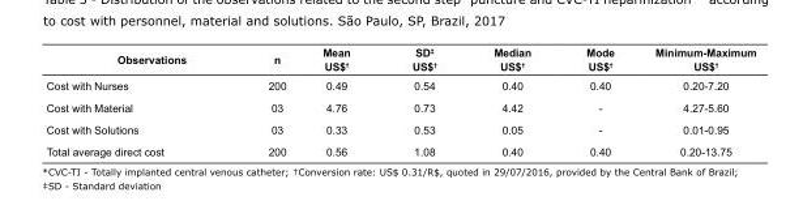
<table><tbody><tr><td>Observations</td><td>n</td><td>Mean US$<sup>†</sup></td><td>SD<sup>‡</sup> US$<sup>†</sup></td><td>Median US$<sup>†</sup></td><td>Mode US$<sup>†</sup></td><td>Minimum-Maximum US$<sup>†</sup></td></tr><tr><td>Cost with Nurses</td><td>200</td><td>0.49</td><td>0.54</td><td>0.40</td><td>0.40</td><td>0.20-7.20</td></tr><tr><td>Cost with Material</td><td>03</td><td>4.76</td><td>0.73</td><td>4.42</td><td>-</td><td>4.27-5.60</td></tr><tr><td>Cost with Solutions</td><td>03</td><td>0.33</td><td>0.53</td><td>0.05</td><td>-</td><td>0.01-0.95</td></tr><tr><td>Total average direct cost</td><td>200</td><td>0.56</td><td>1.08</td><td>0.40</td><td>0.40</td><td>0.20-13.75</td></tr></tbody></table>